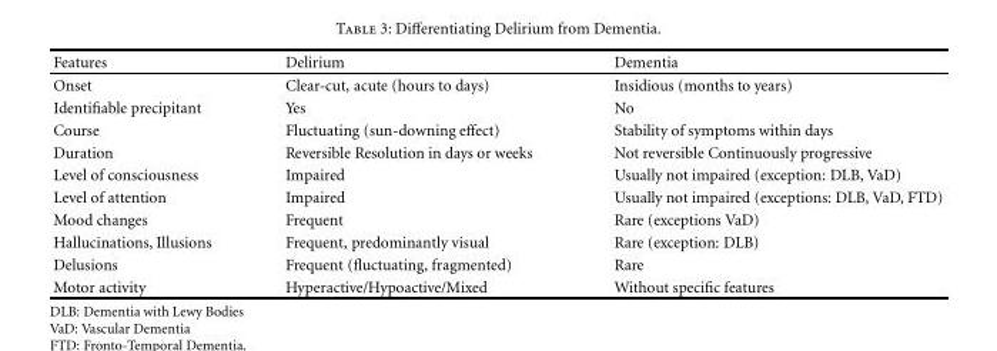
<table><thead><tr><td>Features</td><td>Delirium</td><td>Dementia</td></tr></thead><tbody><tr><td>Onset</td><td>Clear-cut, acute (hours to days)</td><td>Insidious (months to years)</td></tr><tr><td>Identifiable precipitant</td><td>Yes</td><td>No</td></tr><tr><td>Course</td><td>Fluctuating (sun-downing effect)</td><td>Stability of symptoms within days</td></tr><tr><td>Duration</td><td>Reversible Resolution in days or weeks</td><td>Not reversible Continuously progressive</td></tr><tr><td>Level of consciousness</td><td>Impaired</td><td>Usually not impaired (exception: DLB, VaD)</td></tr><tr><td>Level of attention</td><td>Impaired</td><td>Usually not impaired (exceptions: DLB, VaD, FTD)</td></tr><tr><td>Mood changes</td><td>Frequent</td><td>Rare (exceptions VaD)</td></tr><tr><td>Hallucinations, Illusions</td><td>Frequent, predominantly visual</td><td>Rare (exception: DLB)</td></tr><tr><td>Delusions</td><td>Frequent (fluctuating, fragmented)</td><td>Rare</td></tr><tr><td>Motor activity</td><td>Hyperactive/Hypoactive/Mixed</td><td>Without specific features</td></tr></tbody></table>